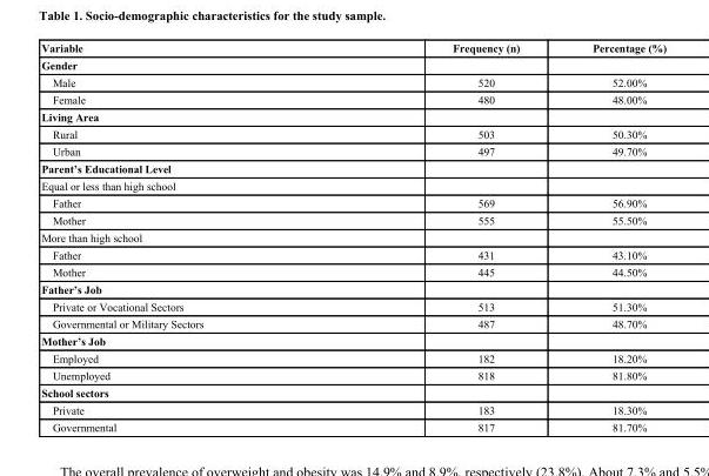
<table><thead><tr><td>Variable</td><td>Frequency (n)</td><td>Percentage (%)</td></tr></thead><tbody><tr><td colspan="3">Gender</td></tr><tr><td>Male</td><td>520</td><td>52.00%</td></tr><tr><td>Female</td><td>480</td><td>48.00%</td></tr><tr><td colspan="3">Living Area</td></tr><tr><td>Rural</td><td>503</td><td>50.30%</td></tr><tr><td>Urban</td><td>497</td><td>49.70%</td></tr><tr><td colspan="3">Parent’s Educational Level</td></tr><tr><td colspan="3">Equal or less than high school</td></tr><tr><td>Father</td><td>569</td><td>56.90%</td></tr><tr><td>Mother</td><td>555</td><td>55.50%</td></tr><tr><td colspan="3">More than high school</td></tr><tr><td>Father</td><td>431</td><td>43.10%</td></tr><tr><td>Mother</td><td>445</td><td>44.50%</td></tr><tr><td colspan="3">Father’s Job</td></tr><tr><td>Private or Vocational Sectors</td><td>513</td><td>51.30%</td></tr><tr><td>Governmental or Military Sectors</td><td>487</td><td>48.70%</td></tr><tr><td colspan="3">Mother’s Job</td></tr><tr><td>Employed</td><td>182</td><td>18.20%</td></tr><tr><td>Unemployed</td><td>818</td><td>81.80%</td></tr><tr><td colspan="3">School sectors</td></tr><tr><td>Private</td><td>183</td><td>18.30%</td></tr><tr><td>Governmental</td><td>817</td><td>81.70%</td></tr></tbody></table>